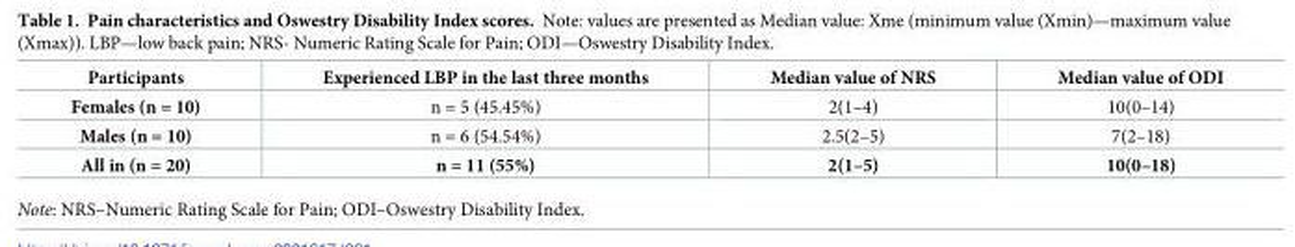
<table><thead><tr><td>Participants</td><td>Experienced LBP in the last three months</td><td>Median value of NRS</td><td>Median value of ODI</td></tr></thead><tbody><tr><td>Females (n = 10)</td><td>n = 5 (45.45%)</td><td>2(1–4)</td><td>10(0–14)</td></tr><tr><td>Males (n = 10)</td><td>n = 6 (54.54%)</td><td>2.5(2–5)</td><td>7(2–18)</td></tr><tr><td>All in (n = 20)</td><td>n = 11 (55%)</td><td>2(1–5)</td><td>10(0–18)</td></tr></tbody></table>